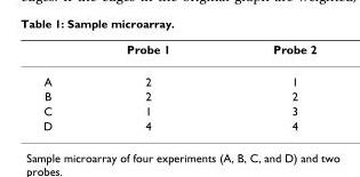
<table><thead><tr><td></td><td>Probe 1</td><td>Probe 2</td></tr></thead><tbody><tr><td>A</td><td>2</td><td>1</td></tr><tr><td>B</td><td>2</td><td>2</td></tr><tr><td>C</td><td>1</td><td>3</td></tr><tr><td>D</td><td>4</td><td>4</td></tr></tbody></table>